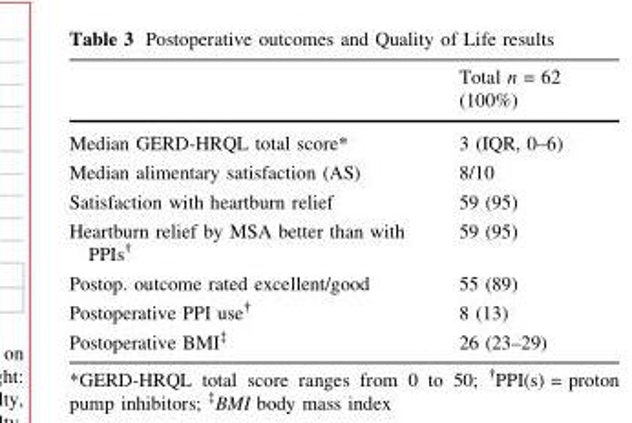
<table><thead><tr><td></td><td>Total n = 62 (100%)</td></tr></thead><tbody><tr><td>Median GERD-HRQL total score*</td><td>3 (IQR, 0–6)</td></tr><tr><td>Median alimentary satisfaction (AS)</td><td>8/10</td></tr><tr><td>Satisfaction with heartburn relief</td><td>59 (95)</td></tr><tr><td>Heartburn relief by MSA better than with PPIs<sup>†</sup></td><td>59 (95)</td></tr><tr><td>Postop. outcome rated excellent/good</td><td>55 (89)</td></tr><tr><td>Postoperative PPI use<sup>†</sup></td><td>8 (13)</td></tr><tr><td>Postoperative BMI<sup>‡</sup></td><td>26 (23–29)</td></tr></tbody></table>